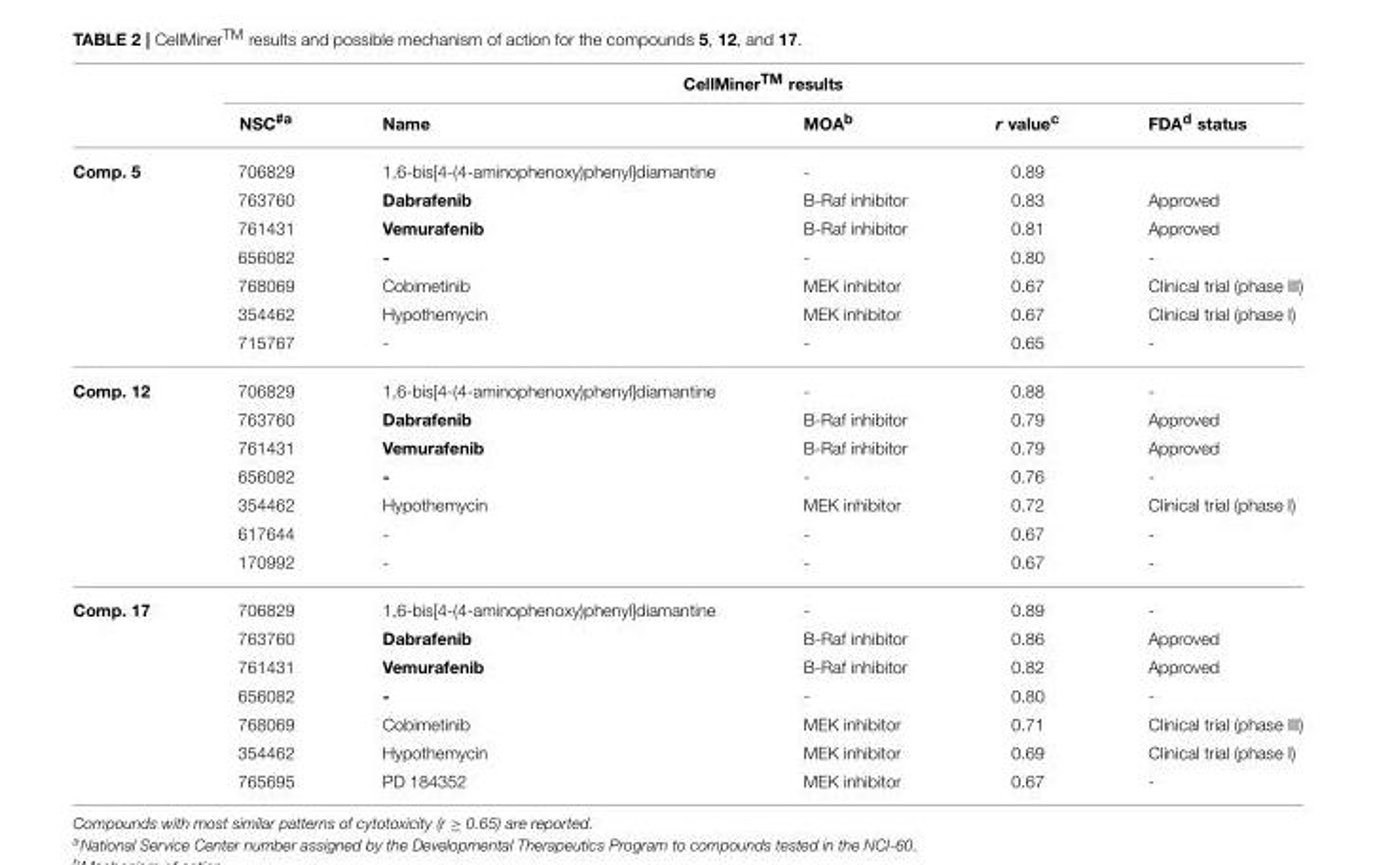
<table><thead><tr><td rowspan="2"></td><td colspan="5">CellMiner<sup>TM</sup> results</td></tr><tr><td>NSC<sup>#a</sup></td><td>Name</td><td>MOA<sup>b</sup></td><td>r value<sup>c</sup></td><td>FDA<sup>d</sup> status</td></tr></thead><tbody><tr><td rowspan="7">Comp. 5</td><td>706829</td><td>1,6-bis[4-(4-aminophenoxy)phenyl]diamantine</td><td>-</td><td>0.89</td><td></td></tr><tr><td>763760</td><td>Dabrafenib</td><td>B-Raf inhibitor</td><td>0.83</td><td>Approved</td></tr><tr><td>761431</td><td>Vemurafenib</td><td>B-Raf inhibitor</td><td>0.81</td><td>Approved</td></tr><tr><td>656082</td><td>-</td><td>-</td><td>0.80</td><td>-</td></tr><tr><td>768069</td><td>Cobimetinib</td><td>MEK inhibitor</td><td>0.67</td><td>Clinical trial (phase III)</td></tr><tr><td>354462</td><td>Hypothemycin</td><td>MEK inhibitor</td><td>0.67</td><td>Clinical trial (phase I)</td></tr><tr><td>715767</td><td>-</td><td>-</td><td>0.65</td><td>-</td></tr><tr><td rowspan="7">Comp. 12</td><td>706829</td><td>1,6-bis[4-(4-aminophenoxy)phenyl]diamantine</td><td>-</td><td>0.88</td><td>-</td></tr><tr><td>763760</td><td>Dabrafenib</td><td>B-Raf inhibitor</td><td>0.79</td><td>Approved</td></tr><tr><td>761431</td><td>Vemurafenib</td><td>B-Raf inhibitor</td><td>0.79</td><td>Approved</td></tr><tr><td>656082</td><td>-</td><td>-</td><td>0.76</td><td>-</td></tr><tr><td>354462</td><td>Hypothemycin</td><td>MEK inhibitor</td><td>0.72</td><td>Clinical trial (phase I)</td></tr><tr><td>617644</td><td>-</td><td>-</td><td>0.67</td><td>-</td></tr><tr><td>170992</td><td>-</td><td>-</td><td>0.67</td><td>-</td></tr><tr><td rowspan="7">Comp. 17</td><td>706829</td><td>1,6-bis[4-(4-aminophenoxy)phenyl]diamantine</td><td>-</td><td>0.89</td><td>-</td></tr><tr><td>763760</td><td>Dabrafenib</td><td>B-Raf inhibitor</td><td>0.86</td><td>Approved</td></tr><tr><td>761431</td><td>Vemurafenib</td><td>B-Raf inhibitor</td><td>0.82</td><td>Approved</td></tr><tr><td>656082</td><td>-</td><td>-</td><td>0.80</td><td>-</td></tr><tr><td>768069</td><td>Cobimetinib</td><td>MEK inhibitor</td><td>0.71</td><td>Clinical trial (phase III)</td></tr><tr><td>354462</td><td>Hypothemycin</td><td>MEK inhibitor</td><td>0.69</td><td>Clinical trial (phase I)</td></tr><tr><td>765695</td><td>PD 184352</td><td>MEK inhibitor</td><td>0.67</td><td>-</td></tr></tbody></table>